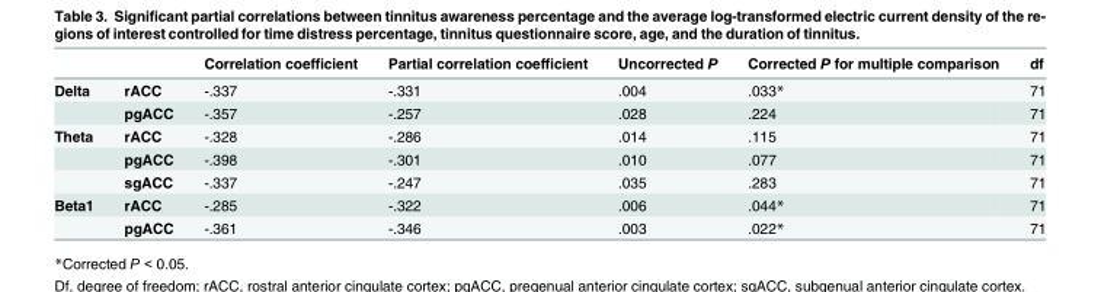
<table><thead><tr><td></td><td></td><td>Correlation coefficient</td><td>Partial correlation coefficient</td><td>Uncorrected P</td><td>Corrected P for multiple comparison</td><td>df</td></tr></thead><tbody><tr><td rowspan="2">Delta</td><td>rACC</td><td>-.337</td><td>-.331</td><td>.004</td><td>.033*</td><td>71</td></tr><tr><td>pgACC</td><td>-.357</td><td>-.257</td><td>.028</td><td>.224</td><td>71</td></tr><tr><td rowspan="3">Theta</td><td>rACC</td><td>-.328</td><td>-.286</td><td>.014</td><td>.115</td><td>71</td></tr><tr><td>pgACC</td><td>-.398</td><td>-.301</td><td>.010</td><td>.077</td><td>71</td></tr><tr><td>sgACC</td><td>-.337</td><td>-.247</td><td>.035</td><td>.283</td><td>71</td></tr><tr><td rowspan="2">Beta1</td><td>rACC</td><td>-.285</td><td>-.322</td><td>.006</td><td>.044*</td><td>71</td></tr><tr><td>pgACC</td><td>-.361</td><td>-.346</td><td>.003</td><td>.022*</td><td>71</td></tr></tbody></table>